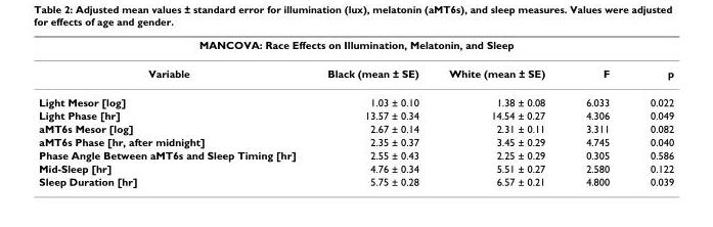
<table><thead><tr><td colspan="5">MANCOVA: Race Effects on Illumination, Melatonin, and Sleep</td></tr><tr><td>Variable</td><td>Black (mean ± SE)</td><td>White (mean ± SE)</td><td>F</td><td>p</td></tr></thead><tbody><tr><td>Light Mesor [log]</td><td>1.03 ± 0.10</td><td>1.38 ± 0.08</td><td>6.033</td><td>0.022</td></tr><tr><td>Light Phase [hr]</td><td>13.57 ± 0.34</td><td>14.54 ± 0.27</td><td>4.306</td><td>0.049</td></tr><tr><td>aMT6s Mesor [log]</td><td>2.67 ± 0.14</td><td>2.31 ± 0.11</td><td>3.311</td><td>0.082</td></tr><tr><td>aMT6s Phase [hr, after midnight]</td><td>2.35 ± 0.37</td><td>3.45 ± 0.29</td><td>4.745</td><td>0.040</td></tr><tr><td>Phase Angle Between aMT6s and Sleep Timing [hr]</td><td>2.55 ± 0.43</td><td>2.25 ± 0.29</td><td>0.305</td><td>0.586</td></tr><tr><td>Mid-Sleep [hr]</td><td>4.76 ± 0.34</td><td>5.51 ± 0.27</td><td>2.580</td><td>0.122</td></tr><tr><td>Sleep Duration [hr]</td><td>5.75 ± 0.28</td><td>6.57 ± 0.21</td><td>4.800</td><td>0.039</td></tr></tbody></table>